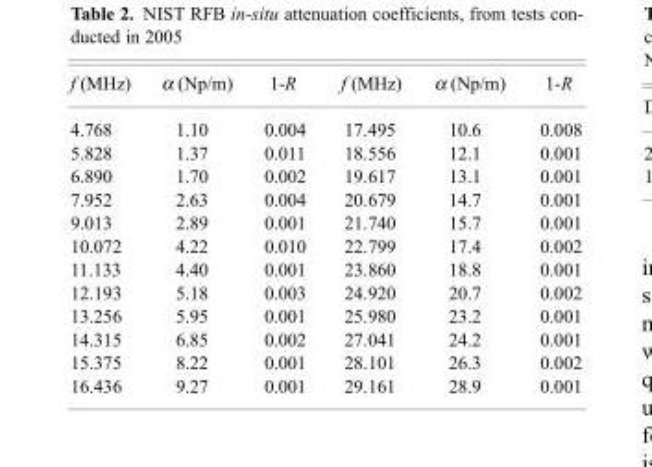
<table><thead><tr><td>f (MHz)</td><td>α (Np/m)</td><td>1-R</td><td>f (MHz)</td><td>α (Np/m)</td><td>1-R</td></tr></thead><tbody><tr><td>4.768</td><td>1.10</td><td>0.004</td><td>17.495</td><td>10.6</td><td>0.008</td></tr><tr><td>5.828</td><td>1.37</td><td>0.011</td><td>18.556</td><td>12.1</td><td>0.001</td></tr><tr><td>6.890</td><td>1.70</td><td>0.002</td><td>19.617</td><td>13.1</td><td>0.001</td></tr><tr><td>7.952</td><td>2.63</td><td>0.004</td><td>20.679</td><td>14.7</td><td>0.001</td></tr><tr><td>9.013</td><td>2.89</td><td>0.001</td><td>21.740</td><td>15.7</td><td>0.001</td></tr><tr><td>10.072</td><td>4.22</td><td>0.010</td><td>22.799</td><td>17.4</td><td>0.002</td></tr><tr><td>11.133</td><td>4.40</td><td>0.001</td><td>23.860</td><td>18.8</td><td>0.001</td></tr><tr><td>12.193</td><td>5.18</td><td>0.003</td><td>24.920</td><td>20.7</td><td>0.002</td></tr><tr><td>13.256</td><td>5.95</td><td>0.001</td><td>25.980</td><td>23.2</td><td>0.001</td></tr><tr><td>14.315</td><td>6.85</td><td>0.002</td><td>27.041</td><td>24.2</td><td>0.001</td></tr><tr><td>15.375</td><td>8.22</td><td>0.001</td><td>28.101</td><td>26.3</td><td>0.002</td></tr><tr><td>16.436</td><td>9.27</td><td>0.001</td><td>29.161</td><td>28.9</td><td>0.001</td></tr></tbody></table>